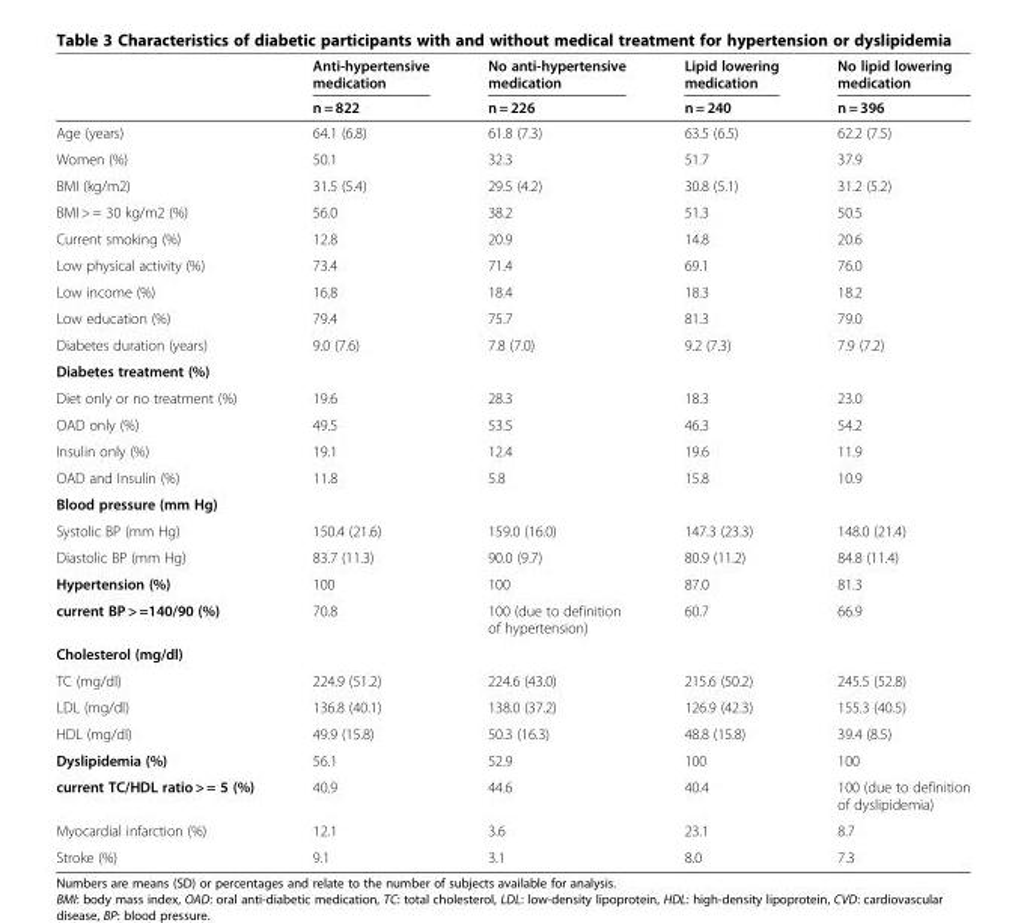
<table><thead><tr><td rowspan="2"></td><td rowspan="2">Anti-hypertensive medication n = 822</td><td rowspan="2">No anti-hypertensive medication n = 226</td><td rowspan="2">Lipid lowering medication n = 240</td><td rowspan="2">No lipid lowering medication n = 396</td></tr><tr></tr></thead><tbody><tr><td>Age (years)</td><td>64.1 (6.8)</td><td>61.8 (7.3)</td><td>63.5 (6.5)</td><td>62.2 (7.5)</td></tr><tr><td>Women (%)</td><td>50.1</td><td>32.3</td><td>51.7</td><td>37.9</td></tr><tr><td>BMI (kg/m2)</td><td>31.5 (5.4)</td><td>29.5 (4.2)</td><td>30.8 (5.1)</td><td>31.2 (5.2)</td></tr><tr><td>BMI &gt; = 30 kg/m2 (%)</td><td>56.0</td><td>38.2</td><td>51.3</td><td>50.5</td></tr><tr><td>Current smoking (%)</td><td>12.8</td><td>20.9</td><td>14.8</td><td>20.6</td></tr><tr><td>Low physical activity (%)</td><td>73.4</td><td>71.4</td><td>69.1</td><td>76.0</td></tr><tr><td>Low income (%)</td><td>16.8</td><td>18.4</td><td>18.3</td><td>18.2</td></tr><tr><td>Low education (%)</td><td>79.4</td><td>75.7</td><td>81.3</td><td>79.0</td></tr><tr><td>Diabetes duration (years)</td><td>9.0 (7.6)</td><td>7.8 (7.0)</td><td>9.2 (7.3)</td><td>7.9 (7.2)</td></tr><tr><td colspan="5">Diabetes treatment (%)</td></tr><tr><td>Diet only or no treatment (%)</td><td>19.6</td><td>28.3</td><td>18.3</td><td>23.0</td></tr><tr><td>OAD only (%)</td><td>49.5</td><td>53.5</td><td>46.3</td><td>54.2</td></tr><tr><td>Insulin only (%)</td><td>19.1</td><td>12.4</td><td>19.6</td><td>11.9</td></tr><tr><td>OAD and Insulin (%)</td><td>11.8</td><td>5.8</td><td>15.8</td><td>10.9</td></tr><tr><td colspan="5">Blood pressure (mm Hg)</td></tr><tr><td>Systolic BP (mm Hg)</td><td>150.4 (21.6)</td><td>159.0 (16.0)</td><td>147.3 (23.3)</td><td>148.0 (21.4)</td></tr><tr><td>Diastolic BP (mm Hg)</td><td>83.7 (11.3)</td><td>90.0 (9.7)</td><td>80.9 (11.2)</td><td>84.8 (11.4)</td></tr><tr><td>Hypertension (%)</td><td>100</td><td>100</td><td>87.0</td><td>81.3</td></tr><tr><td>current BP &gt; =140/90 (%)</td><td>70.8</td><td>100 (due to definition of hypertension)</td><td>60.7</td><td>66.9</td></tr><tr><td colspan="5">Cholesterol (mg/dl)</td></tr><tr><td>TC (mg/dl)</td><td>224.9 (51.2)</td><td>224.6 (43.0)</td><td>215.6 (50.2)</td><td>245.5 (52.8)</td></tr><tr><td>LDL (mg/dl)</td><td>136.8 (40.1)</td><td>138.0 (37.2)</td><td>126.9 (42.3)</td><td>155.3 (40.5)</td></tr><tr><td>HDL (mg/dl)</td><td>49.9 (15.8)</td><td>50.3 (16.3)</td><td>48.8 (15.8)</td><td>39.4 (8.5)</td></tr><tr><td>Dyslipidemia (%)</td><td>56.1</td><td>52.9</td><td>100</td><td>100</td></tr><tr><td>current TC/HDL ratio &gt; = 5 (%)</td><td>40.9</td><td>44.6</td><td>40.4</td><td>100 (due to definition of dyslipidemia)</td></tr><tr><td>Myocardial infarction (%)</td><td>12.1</td><td>3.6</td><td>23.1</td><td>8.7</td></tr><tr><td>Stroke (%)</td><td>9.1</td><td>3.1</td><td>8.0</td><td>7.3</td></tr></tbody></table>